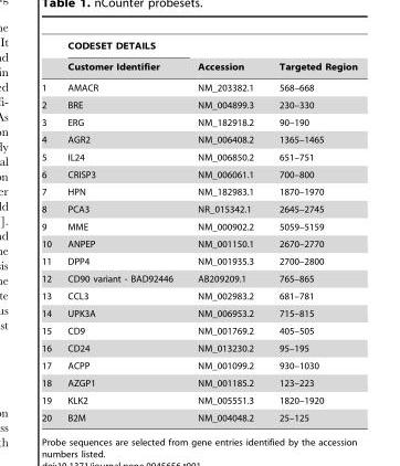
<table><thead><tr><td rowspan="2"></td><td rowspan="2">CODESET DETAILS Customer Identifier</td><td rowspan="2">Accession</td><td rowspan="2">Targeted Region</td></tr><tr></tr></thead><tbody><tr><td>1</td><td>AMACR</td><td>NM_203382.1</td><td>568–668</td></tr><tr><td>2</td><td>BRE</td><td>NM_004899.3</td><td>230–330</td></tr><tr><td>3</td><td>ERG</td><td>NM_182918.2</td><td>90–190</td></tr><tr><td>4</td><td>AGR2</td><td>NM_006408.2</td><td>1365–1465</td></tr><tr><td>5</td><td>IL24</td><td>NM_006850.2</td><td>651–751</td></tr><tr><td>6</td><td>CRISP3</td><td>NM_006061.1</td><td>700–800</td></tr><tr><td>7</td><td>HPN</td><td>NM_182983.1</td><td>1870–1970</td></tr><tr><td>8</td><td>PCA3</td><td>NR_015342.1</td><td>2645–2745</td></tr><tr><td>9</td><td>MME</td><td>NM_000902.2</td><td>5059–5159</td></tr><tr><td>10</td><td>ANPEP</td><td>NM_001150.1</td><td>2670–2770</td></tr><tr><td>11</td><td>DPP4</td><td>NM_001935.3</td><td>2700–2800</td></tr><tr><td>12</td><td>CD90 variant - BAD92446</td><td>AB209209.1</td><td>765–865</td></tr><tr><td>13</td><td>CCL3</td><td>NM_002983.2</td><td>681–781</td></tr><tr><td>14</td><td>UPK3A</td><td>NM_006953.2</td><td>715–815</td></tr><tr><td>15</td><td>CD9</td><td>NM_001769.2</td><td>405–505</td></tr><tr><td>16</td><td>CD24</td><td>NM_013230.2</td><td>95–195</td></tr><tr><td>17</td><td>ACPP</td><td>NM_001099.2</td><td>930–1030</td></tr><tr><td>18</td><td>AZGP1</td><td>NM_001185.2</td><td>123–223</td></tr><tr><td>19</td><td>KLK2</td><td>NM_005551.3</td><td>1820–1920</td></tr><tr><td>20</td><td>B2M</td><td>NM_004048.2</td><td>25–125</td></tr></tbody></table>